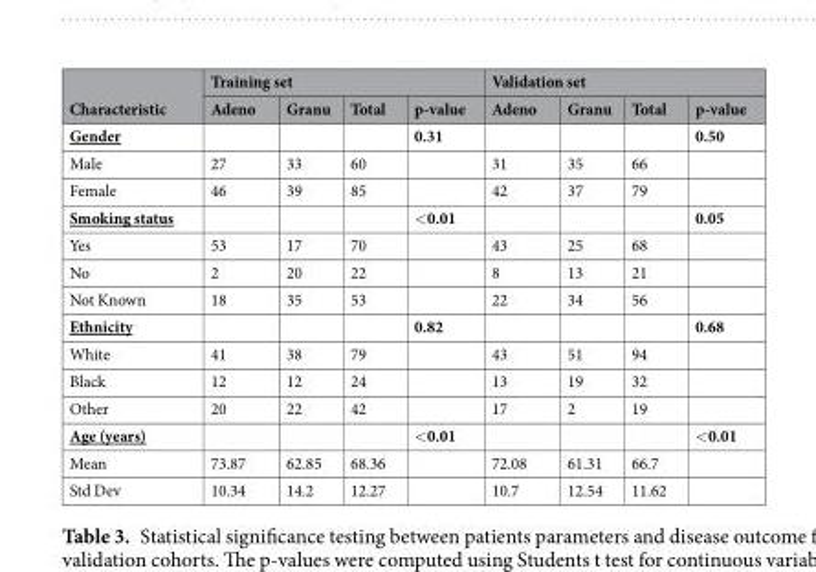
<table><thead><tr><td rowspan="2">Characteristic</td><td colspan="4">Training set</td><td colspan="4">Validation set</td></tr><tr><td>Adeno</td><td>Granu</td><td>Total</td><td>p-value</td><td>Adeno</td><td>Granu</td><td>Total</td><td>p-value</td></tr></thead><tbody><tr><td>Gender</td><td></td><td></td><td></td><td>0.31</td><td></td><td></td><td></td><td>0.50</td></tr><tr><td>Male</td><td>27</td><td>33</td><td>60</td><td></td><td>31</td><td>35</td><td>66</td><td></td></tr><tr><td>Female</td><td>46</td><td>39</td><td>85</td><td></td><td>42</td><td>37</td><td>79</td><td></td></tr><tr><td>Smoking status</td><td></td><td></td><td></td><td>&lt;0.01</td><td></td><td></td><td></td><td>0.05</td></tr><tr><td>Yes</td><td>53</td><td>17</td><td>70</td><td></td><td>43</td><td>25</td><td>68</td><td></td></tr><tr><td>No</td><td>2</td><td>20</td><td>22</td><td></td><td>8</td><td>13</td><td>21</td><td></td></tr><tr><td>Not Known</td><td>18</td><td>35</td><td>53</td><td></td><td>22</td><td>34</td><td>56</td><td></td></tr><tr><td>Ethnicity</td><td></td><td></td><td></td><td>0.82</td><td></td><td></td><td></td><td>0.68</td></tr><tr><td>White</td><td>41</td><td>38</td><td>79</td><td></td><td>43</td><td>51</td><td>94</td><td></td></tr><tr><td>Black</td><td>12</td><td>12</td><td>24</td><td></td><td>13</td><td>19</td><td>32</td><td></td></tr><tr><td>Other</td><td>20</td><td>22</td><td>42</td><td></td><td>17</td><td>2</td><td>19</td><td></td></tr><tr><td>Age (years)</td><td></td><td></td><td></td><td>&lt;0.01</td><td></td><td></td><td></td><td>&lt;0.01</td></tr><tr><td>Mean</td><td>73.87</td><td>62.85</td><td>68.36</td><td></td><td>72.08</td><td>61.31</td><td>66.7</td><td></td></tr><tr><td>Std Dev</td><td>10.34</td><td>14.2</td><td>12.27</td><td></td><td>10.7</td><td>12.54</td><td>11.62</td><td></td></tr></tbody></table>